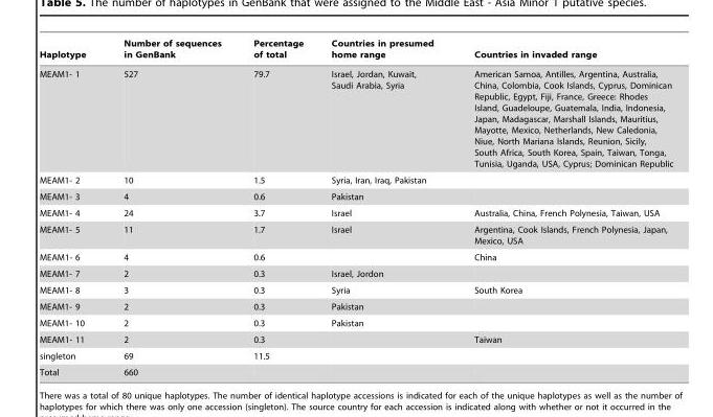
<table><thead><tr><td>Haplotype</td><td>Number of sequences in GenBank</td><td>Percentage of total</td><td>Countries in presumed home range</td><td>Countries in invaded range</td></tr></thead><tbody><tr><td>MEAM1- 1</td><td>527</td><td>79.7</td><td>Israel, Jordan, Kuwait, Saudi Arabia, Syria</td><td>American Samoa, Antilles, Argentina, Australia, China, Colombia, Cook Islands, Cyprus, Dominican Republic, Egypt, Fiji, France, Greece: Rhodes Island, Guadeloupe, Guatemala, India, Indonesia, Japan, Madagascar, Marshall Islands, Mauritius, Mayotte, Mexico, Netherlands, New Caledonia, Niue, North Mariana Islands, Reunion, Sicily, South Africa, South Korea, Spain, Taiwan, Tonga, Tunisia, Uganda, USA, Cyprus; Dominican Republic</td></tr><tr><td>MEAM1- 2</td><td>10</td><td>1.5</td><td>Syria, Iran, Iraq, Pakistan</td><td></td></tr><tr><td>MEAM1- 3</td><td>4</td><td>0.6</td><td>Pakistan</td><td></td></tr><tr><td>MEAM1- 4</td><td>24</td><td>3.7</td><td>Israel</td><td>Australia, China, French Polynesia, Taiwan, USA</td></tr><tr><td>MEAM1- 5</td><td>11</td><td>1.7</td><td>Israel</td><td>Argentina, Cook Islands, French Polynesia, Japan, Mexico, USA</td></tr><tr><td>MEAM1- 6</td><td>4</td><td>0.6</td><td></td><td>China</td></tr><tr><td>MEAM1- 7</td><td>2</td><td>0.3</td><td>Israel, Jordon</td><td></td></tr><tr><td>MEAM1- 8</td><td>3</td><td>0.3</td><td>Syria</td><td>South Korea</td></tr><tr><td>MEAM1- 9</td><td>2</td><td>0.3</td><td>Pakistan</td><td></td></tr><tr><td>MEAM1- 10</td><td>2</td><td>0.3</td><td>Pakistan</td><td></td></tr><tr><td>MEAM1- 11</td><td>2</td><td>0.3</td><td></td><td>Taiwan</td></tr><tr><td>singleton</td><td>69</td><td>11.5</td><td></td><td></td></tr><tr><td>Total</td><td>660</td><td></td><td></td><td></td></tr></tbody></table>